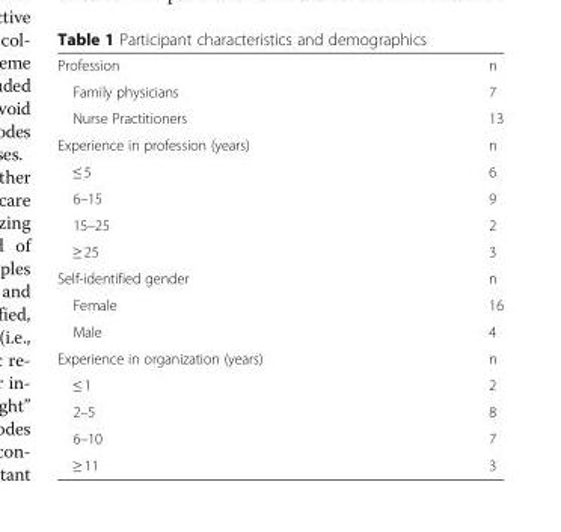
<table><tbody><tr><td>Profession</td><td>n</td></tr><tr><td>Family physicians</td><td>7</td></tr><tr><td>Nurse Practitioners</td><td>13</td></tr><tr><td>Experience in profession (years)</td><td>n</td></tr><tr><td>≤ 5</td><td>6</td></tr><tr><td>6–15</td><td>9</td></tr><tr><td>15–25</td><td>2</td></tr><tr><td>≥ 25</td><td>3</td></tr><tr><td>Self-identified gender</td><td>n</td></tr><tr><td>Female</td><td>16</td></tr><tr><td>Male</td><td>4</td></tr><tr><td>Experience in organization (years)</td><td>n</td></tr><tr><td>≤ 1</td><td>2</td></tr><tr><td>2–5</td><td>8</td></tr><tr><td>6–10</td><td>7</td></tr><tr><td>≥ 11</td><td>3</td></tr></tbody></table>